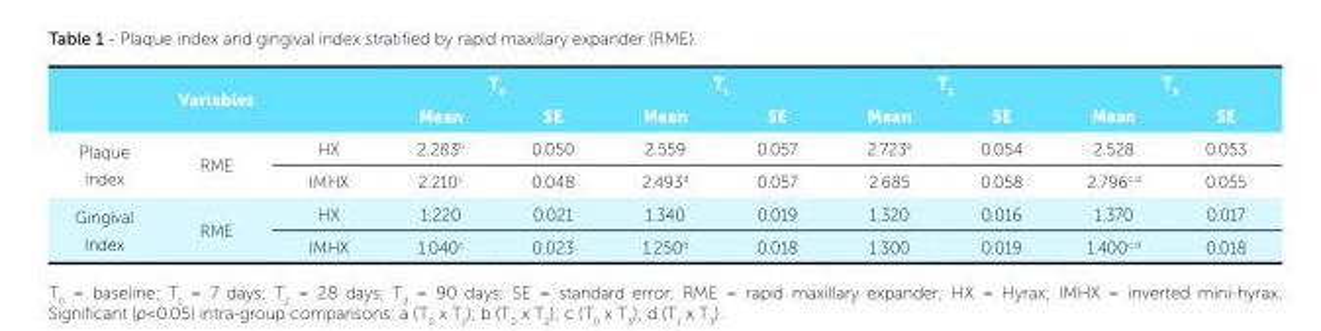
<table><thead><tr><td rowspan="2"></td><td rowspan="2">Variables</td><td rowspan="2"></td><td colspan="2">T<sub>0</sub></td><td colspan="2">T<sub>1</sub></td><td colspan="2">T<sub>2</sub></td><td colspan="2">T<sub>3</sub></td></tr><tr><td>Mean</td><td>SE</td><td>Mean</td><td>SE</td><td>Mean</td><td>SE</td><td>Mean</td><td>SE</td></tr></thead><tbody><tr><td rowspan="2">Plaque Index</td><td rowspan="2">RME</td><td>HX</td><td>2.283<sup>b</sup></td><td>0.050</td><td>2.559</td><td>0.057</td><td>2.723<sup>b</sup></td><td>0.054</td><td>2.528</td><td>0.053</td></tr><tr><td>IMHX</td><td>2.210<sup>c</sup></td><td>0.048</td><td>2.493<sup>d</sup></td><td>0.057</td><td>2.685</td><td>0.058</td><td>2.796<sup>c.d</sup></td><td>0.055</td></tr><tr><td rowspan="2">Gingival Index</td><td rowspan="2">RME</td><td>HX</td><td>1.220</td><td>0.021</td><td>1.340</td><td>0.019</td><td>1.320</td><td>0.016</td><td>1.370</td><td>0.017</td></tr><tr><td>IMHX</td><td>1.040<sup>c</sup></td><td>0.023</td><td>1.250<sup>d</sup></td><td>0.018</td><td>1.300</td><td>0.019</td><td>1.400<sup>c.d</sup></td><td>0.018</td></tr></tbody></table>